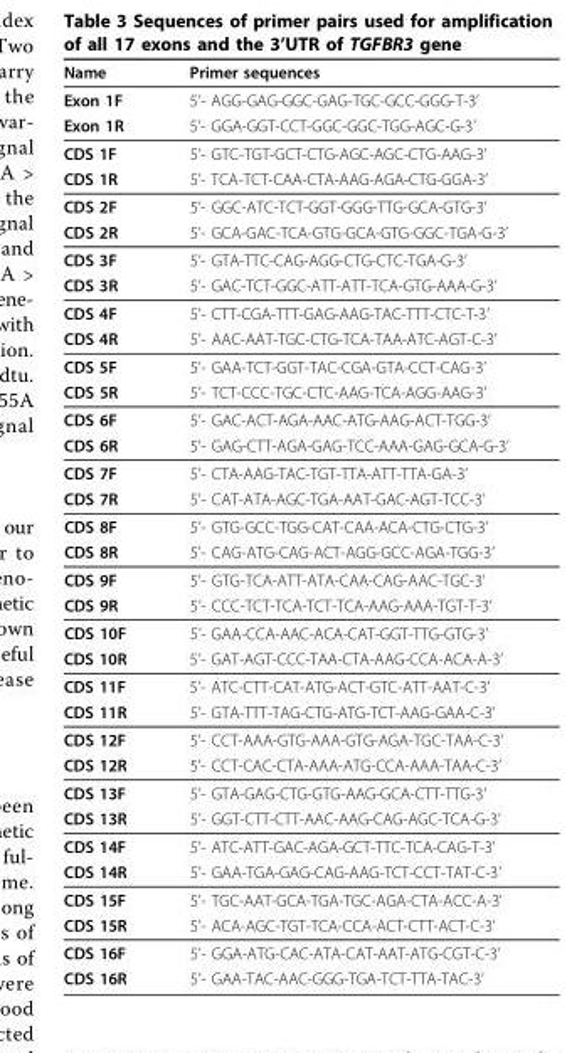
<table><thead><tr><td>Name</td><td>Primer sequences</td></tr></thead><tbody><tr><td>Exon 1F</td><td>5’- AGG-GAG-GGC-GAG-TGC-GCC-GGG-T-3’</td></tr><tr><td>Exon 1R</td><td>5’- GGA-GGT-CCT-GGC-GGC-TGG-AGC-G-3’</td></tr><tr><td>CDS 1F</td><td>5’- GTC-TGT-GCT-CTG-AGC-AGC-CTG-AAG-3’</td></tr><tr><td>CDS 1R</td><td>5’- TCA-TCT-CAA-CTA-AAG-AGA-CTG-GGA-3’</td></tr><tr><td>CDS 2F</td><td>5’- GGC-ATC-TCT-GGT-GGG-TTG-GCA-GTG-3’</td></tr><tr><td>CDS 2R</td><td>5’- GCA-GAC-TCA-GTG-GCA-GTG-GGC-TGA-G-3’</td></tr><tr><td>CDS 3F</td><td>5’- GTA-TTC-CAG-AGG-CTG-CTC-TGA-G-3’</td></tr><tr><td>CDS 3R</td><td>5’- GAC-TCT-GGC-ATT-ATT-TCA-GTG-AAA-G-3’</td></tr><tr><td>CDS 4F</td><td>5’- CTT-CGA-TTT-GAG-AAG-TAC-TTT-CTC-T-3’</td></tr><tr><td>CDS 4R</td><td>5’- AAC-AAT-TGC-CTG-TCA-TAA-ATC-AGT-C-3’</td></tr><tr><td>CDS 5F</td><td>5’- GAA-TCT-GGT-TAC-CGA-GTA-CCT-CAG-3’</td></tr><tr><td>CDS 5R</td><td>5’- TCT-CCC-TGC-CTC-AAG-TCA-AGG-AAG-3’</td></tr><tr><td>CDS 6F</td><td>5’- GAC-ACT-AGA-AAC-ATG-AAG-ACT-TGG-3’</td></tr><tr><td>CDS 6R</td><td>5’- GAG-CTT-AGA-GAG-TCC-AAA-GAG-GCA-G-3’</td></tr><tr><td>CDS 7F</td><td>5’- CTA-AAG-TAC-TGT-TTA-ATT-TTA-GA-3’</td></tr><tr><td>CDS 7R</td><td>5’- CAT-ATA-AGC-TGA-AAT-GAC-AGT-TCC-3’</td></tr><tr><td>CDS 8F</td><td>5’- GTG-GCC-TGG-CAT-CAA-ACA-CTG-CTG-3’</td></tr><tr><td>CDS 8R</td><td>5’- CAG-ATG-CAG-ACT-AGG-GCC-AGA-TGG-3’</td></tr><tr><td>CDS 9F</td><td>5’- GTG-TCA-ATT-ATA-CAA-CAG-AAC-TGC-3’</td></tr><tr><td>CDS 9R</td><td>5’- CCC-TCT-TCA-TCT-TCA-AAG-AAA-TGT-T-3’</td></tr><tr><td>CDS 10F</td><td>5’- GAA-CCA-AAC-ACA-CAT-GGT-TTG-GTG-3’</td></tr><tr><td>CDS 10R</td><td>5’- GAT-AGT-CCC-TAA-CTA-AAG-CCA-ACA-A-3’</td></tr><tr><td>CDS 11F</td><td>5’- ATC-CTT-CAT-ATG-ACT-GTC-ATT-AAT-C-3’</td></tr><tr><td>CDS 11R</td><td>5’- GTA-TTT-TAG-CTG-ATG-TCT-AAG-GAA-C-3’</td></tr><tr><td>CDS 12F</td><td>5’- CCT-AAA-GTG-AAA-GTG-AGA-TGC-TAA-C-3’</td></tr><tr><td>CDS 12R</td><td>5’- CCT-CAC-CTA-AAA-ATG-CCA-AAA-TAA-C-3’</td></tr><tr><td>CDS 13F</td><td>5’- GTA-GAG-CTG-GTG-AAG-GCA-CTT-TTG-3’</td></tr><tr><td>CDS 13R</td><td>5’- GGT-CTT-CTT-AAC-AAG-CAG-AGC-TCA-G-3’</td></tr><tr><td>CDS 14F</td><td>5’- ATC-ATT-GAC-AGA-GCT-TTC-TCA-CAG-T-3’</td></tr><tr><td>CDS 14R</td><td>5’- GAA-TGA-GAG-CAG-AAG-TCT-CCT-TAT-C-3’</td></tr><tr><td>CDS 15F</td><td>5’- TGC-AAT-GCA-TGA-TGC-AGA-CTA-ACC-A-3’</td></tr><tr><td>CDS 15R</td><td>5’- ACA-AGC-TGT-TCA-CCA-ACT-CTT-ACT-C-3’</td></tr><tr><td>CDS 16F</td><td>5’- GGA-ATG-CAC-ATA-CAT-AAT-ATG-CGT-C-3’</td></tr><tr><td>CDS 16R</td><td>5’- GAA-TAC-AAC-GGG-TGA-TCT-TTA-TAC-3’</td></tr></tbody></table>